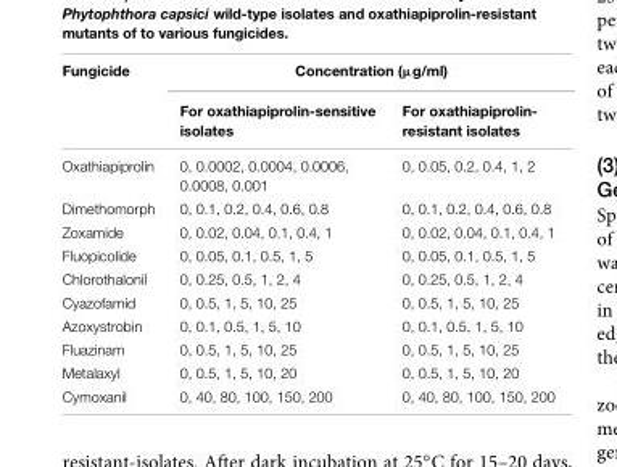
<table><thead><tr><td rowspan="2">Fungicide</td><td colspan="2">Concentration (µg/ml)</td></tr><tr><td>For oxathiapiprolin-sensitive isolates</td><td>For oxathiapiprolin- resistant isolates</td></tr></thead><tbody><tr><td>Oxathiapiprolin</td><td>0, 0.0002, 0.0004, 0.0006, 0.0008, 0.001</td><td>0, 0.05, 0.2, 0.4, 1, 2</td></tr><tr><td>Dimethomorph</td><td>0, 0.1, 0.2, 0.4, 0.6, 0.8</td><td>0, 0.1, 0.2, 0.4, 0.6, 0.8</td></tr><tr><td>Zoxamide</td><td>0, 0.02, 0.04, 0.1, 0.4, 1</td><td>0, 0.02, 0.04, 0.1, 0.4, 1</td></tr><tr><td>Fluopicolide</td><td>0, 0.05, 0.1, 0.5, 1, 5</td><td>0, 0.05, 0.1, 0.5, 1, 5</td></tr><tr><td>Chlorothalonil</td><td>0, 0.25, 0.5, 1, 2, 4</td><td>0, 0.25, 0.5, 1, 2, 4</td></tr><tr><td>Cyazofamid</td><td>0, 0.5, 1, 5, 10, 25</td><td>0, 0.5, 1, 5, 10, 25</td></tr><tr><td>Azoxystrobin</td><td>0, 0.1, 0.5, 1, 5, 10</td><td>0, 0.1, 0.5, 1, 5, 10</td></tr><tr><td>Fluazinam</td><td>0, 0.5, 1, 5, 10, 25</td><td>0, 0.5, 1, 5, 10, 25</td></tr><tr><td>Metalaxyl</td><td>0, 0.5, 1, 5, 10, 20</td><td>0, 0.5, 1, 5, 10, 20</td></tr><tr><td>Cymoxanil</td><td>0, 40, 80, 100, 150, 200</td><td>0, 40, 80, 100, 150, 200</td></tr></tbody></table>